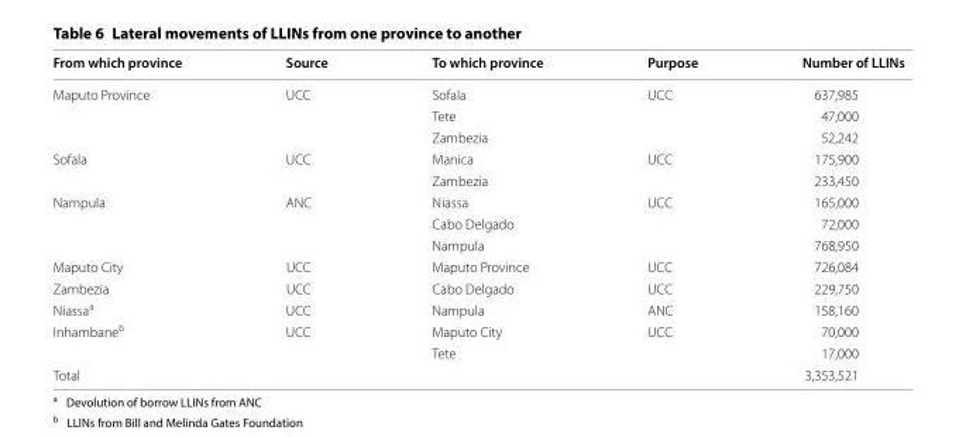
<table><thead><tr><td>From which province</td><td>Source</td><td>To which province</td><td>Purpose</td><td>Number of LLINs</td></tr></thead><tbody><tr><td rowspan="3">Maputo Province</td><td rowspan="3">UCC</td><td>Sofala</td><td rowspan="3">UCC</td><td>637,985</td></tr><tr><td>Tete</td><td>47,000</td></tr><tr><td>Zambezia</td><td>52,242</td></tr><tr><td rowspan="2">Sofala</td><td rowspan="2">UCC</td><td>Manica</td><td rowspan="2">UCC</td><td>175,900</td></tr><tr><td>Zambezia</td><td>233,450</td></tr><tr><td rowspan="3">Nampula</td><td rowspan="3">ANC</td><td>Niassa</td><td rowspan="3">UCC</td><td>165,000</td></tr><tr><td>Cabo Delgado</td><td>72,000</td></tr><tr><td>Nampula</td><td>768,950</td></tr><tr><td>Maputo City</td><td>UCC</td><td>Maputo Province</td><td>UCC</td><td>726,084</td></tr><tr><td>Zambezia</td><td>UCC</td><td>Cabo Delgado</td><td>UCC</td><td>229,750</td></tr><tr><td>Niassa<sup>a</sup></td><td>UCC</td><td>Nampula</td><td>ANC</td><td>158,160</td></tr><tr><td rowspan="2">Inhambane<sup>b</sup></td><td rowspan="2">UCC</td><td>Maputo City</td><td rowspan="2">UCC</td><td>70,000</td></tr><tr><td>Tete</td><td>17,000</td></tr><tr><td>Total</td><td></td><td></td><td></td><td>3,353,521</td></tr></tbody></table>